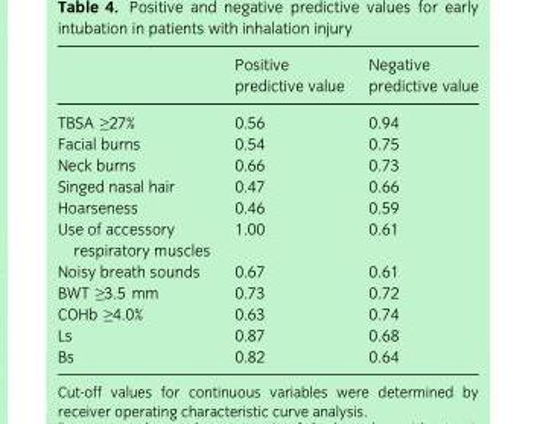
<table><thead><tr><td></td><td>Positive predictive value</td><td>Negative predictive value</td></tr></thead><tbody><tr><td>TBSA ≥27%</td><td>0.56</td><td>0.94</td></tr><tr><td>Facial burns</td><td>0.54</td><td>0.75</td></tr><tr><td>Neck burns</td><td>0.66</td><td>0.73</td></tr><tr><td>Singed nasal hair</td><td>0.47</td><td>0.66</td></tr><tr><td>Hoarseness</td><td>0.46</td><td>0.59</td></tr><tr><td>Use of accessory respiratory muscles</td><td>1.00</td><td>0.61</td></tr><tr><td>Noisy breath sounds</td><td>0.67</td><td>0.61</td></tr><tr><td>BWT ≥3.5 mm</td><td>0.73</td><td>0.72</td></tr><tr><td>COHb ≥4.0%</td><td>0.63</td><td>0.74</td></tr><tr><td>Ls</td><td>0.87</td><td>0.68</td></tr><tr><td>Bs</td><td>0.82</td><td>0.64</td></tr></tbody></table>